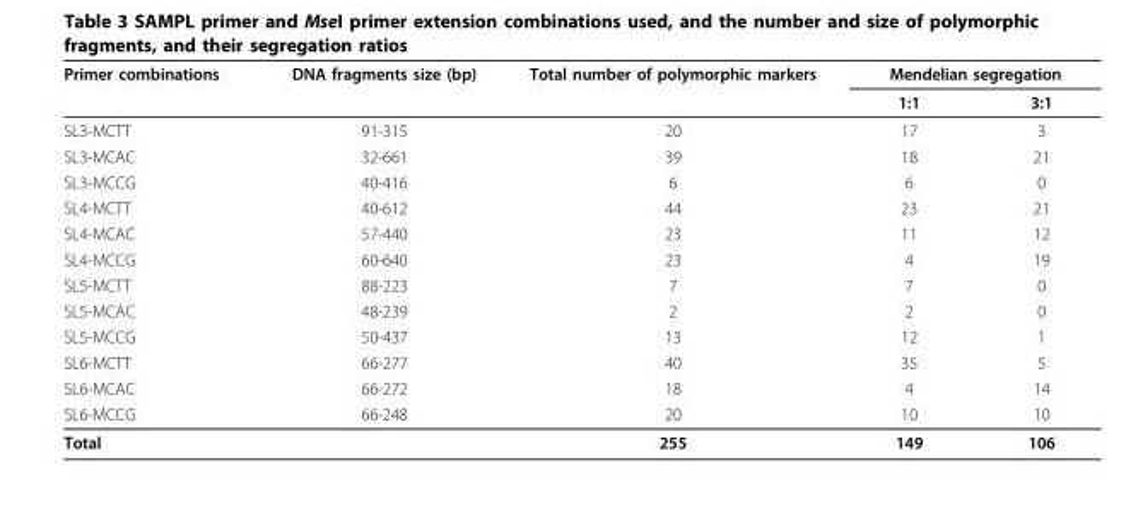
<table><thead><tr><td rowspan="2">Primer combinations</td><td rowspan="2">DNA fragments size (bp)</td><td rowspan="2">Total number of polymorphic markers</td><td colspan="2">Mendelian segregation</td></tr><tr><td>1:1</td><td>3:1</td></tr></thead><tbody><tr><td>SL3-MCTT</td><td>91-315</td><td>20</td><td>17</td><td>3</td></tr><tr><td>SL3-MCAC</td><td>32-661</td><td>39</td><td>18</td><td>21</td></tr><tr><td>SL3-MCCG</td><td>40-416</td><td>6</td><td>6</td><td>0</td></tr><tr><td>SL4-MCTT</td><td>40-612</td><td>44</td><td>23</td><td>21</td></tr><tr><td>SL4-MCAC</td><td>57-440</td><td>23</td><td>11</td><td>12</td></tr><tr><td>SL4-MCCG</td><td>60-640</td><td>23</td><td>4</td><td>19</td></tr><tr><td>SL5-MCTT</td><td>88-223</td><td>7</td><td>7</td><td>0</td></tr><tr><td>SL5-MCAC</td><td>48-239</td><td>2</td><td>2</td><td>0</td></tr><tr><td>SL5-MCCG</td><td>50-437</td><td>13</td><td>12</td><td>1</td></tr><tr><td>SL6-MCTT</td><td>66-277</td><td>40</td><td>35</td><td>5</td></tr><tr><td>SL6-MCAC</td><td>66-272</td><td>18</td><td>4</td><td>14</td></tr><tr><td>SL6-MCCG</td><td>66-248</td><td>20</td><td>10</td><td>10</td></tr><tr><td>Total</td><td></td><td>255</td><td>149</td><td>106</td></tr></tbody></table>